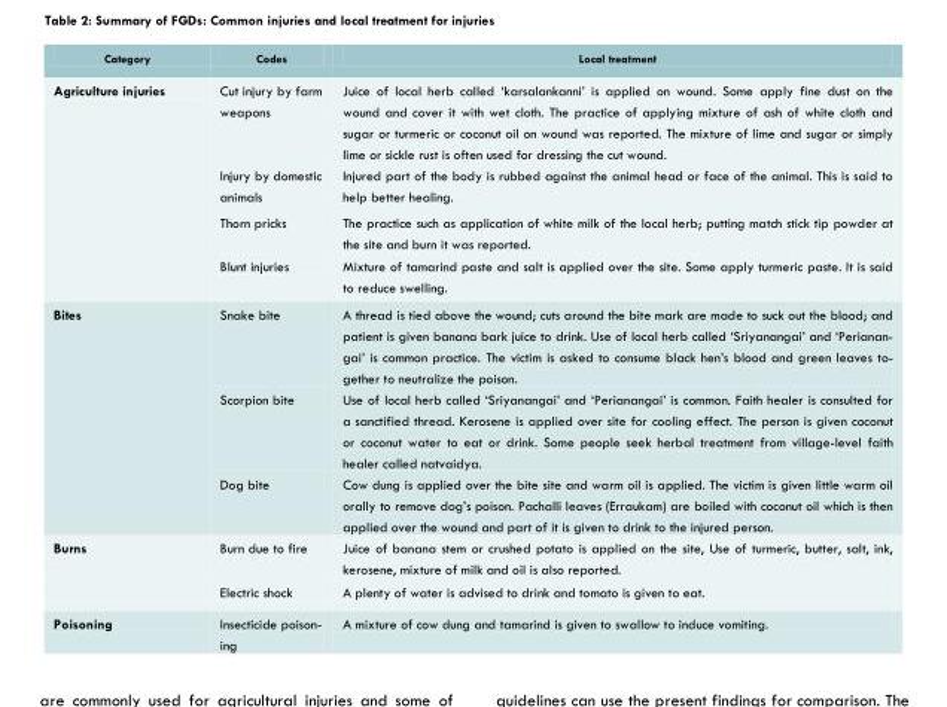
<table><thead><tr><td>Category</td><td>Codes</td><td>Local treatment</td></tr></thead><tbody><tr><td rowspan="4">Agriculture injuries</td><td>Cut injury by farm weapons</td><td>Juice of local herb called ‘karsalankanni’ is applied on wound. Some apply fine dust on the wound and cover it with wet cloth. The practice of applying mixture of ash of white cloth and sugar or turmeric or coconut oil on wound was reported. The mixture of lime and sugar or simply lime or sickle rust is often used for dressing the cut wound.</td></tr><tr><td>Injury by domestic animals</td><td>Injured part of the body is rubbed against the animal head or face of the animal. This is said to help better healing.</td></tr><tr><td>Thorn pricks</td><td>The practice such as application of white milk of the local herb; putting match stick tip powder at the site and burn it was reported.</td></tr><tr><td>Blunt injuries</td><td>Mixture of tamarind paste and salt is applied over the site. Some apply turmeric paste. It is said to reduce swelling.</td></tr><tr><td rowspan="3">Bites</td><td>Snake bite</td><td>A thread is tied above the wound; cuts around the bite mark are made to suck out the blood; and patient is given banana bark juice to drink. Use of local herb called ‘Sriyanangai’ and ‘Perianan- gai’ is common practice. The victim is asked to consume black hen’s blood and green leaves to- gether to neutralize the poison.</td></tr><tr><td>Scorpion bite</td><td>Use of local herb called ‘Sriyanangai’ and ‘Perianangai’ is common. Faith healer is consulted for a sanctified thread. Kerosene is applied over site for cooling effect. The person is given coconut or coconut water to eat or drink. Some people seek herbal treatment from village-level faith healer called natvaidya.</td></tr><tr><td>Dog bite</td><td>Cow dung is applied over the bite site and warm oil is applied. The victim is given little warm oil orally to remove dog’s poison. Pachalli leaves (Erraukam) are boiled with coconut oil which is then applied over the wound and part of it is given to drink to the injured person.</td></tr><tr><td rowspan="2">Burns</td><td>Burn due to fire</td><td>Juice of banana stem or crushed potato is applied on the site, Use of turmeric, butter, salt, ink, kerosene, mixture of milk and oil is also reported.</td></tr><tr><td>Electric shock</td><td>A plenty of water is advised to drink and tomato is given to eat.</td></tr><tr><td>Poisoning</td><td>Insecticide poison- ing</td><td>A mixture of cow dung and tamarind is given to swallow to induce vomiting.</td></tr></tbody></table>